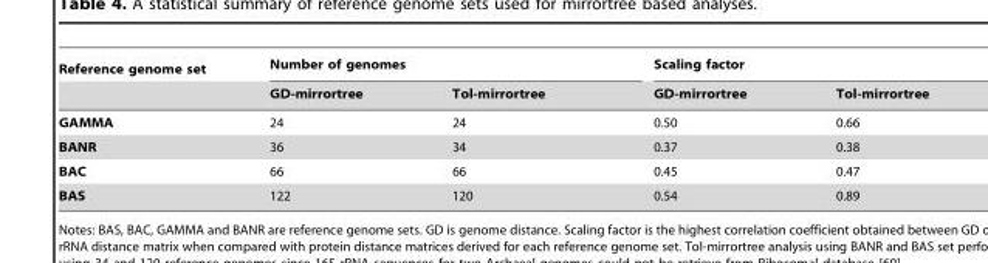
<table><thead><tr><td rowspan="2">Reference genome set</td><td colspan="2">Number of genomes</td><td colspan="2">Scaling factor</td></tr><tr><td>GD-mirrortree</td><td>Tol-mirrortree</td><td>GD-mirrortree</td><td>Tol-mirrortree</td></tr></thead><tbody><tr><td>GAMMA</td><td>24</td><td>24</td><td>0.50</td><td>0.66</td></tr><tr><td>BANR</td><td>36</td><td>34</td><td>0.37</td><td>0.38</td></tr><tr><td>BAC</td><td>66</td><td>66</td><td>0.45</td><td>0.47</td></tr><tr><td>BAS</td><td>122</td><td>120</td><td>0.54</td><td>0.89</td></tr></tbody></table>